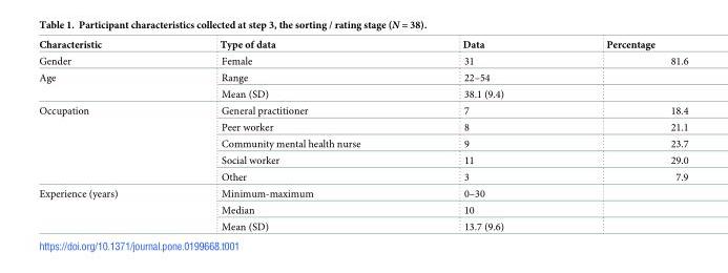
<table><thead><tr><td>Characteristic</td><td>Type of data</td><td>Data</td><td>Percentage</td></tr></thead><tbody><tr><td>Gender</td><td>Female</td><td>31</td><td>81.6</td></tr><tr><td rowspan="2">Age</td><td>Range</td><td>22–54</td><td></td></tr><tr><td>Mean (SD)</td><td>38.1 (9.4)</td><td></td></tr><tr><td rowspan="5">Occupation</td><td>General practitioner</td><td>7</td><td>18.4</td></tr><tr><td>Peer worker</td><td>8</td><td>21.1</td></tr><tr><td>Community mental health nurse</td><td>9</td><td>23.7</td></tr><tr><td>Social worker</td><td>11</td><td>29.0</td></tr><tr><td>Other</td><td>3</td><td>7.9</td></tr><tr><td rowspan="3">Experience (years)</td><td>Minimum-maximum</td><td>0–30</td><td></td></tr><tr><td>Median</td><td>10</td><td></td></tr><tr><td>Mean (SD)</td><td>13.7 (9.6)</td><td></td></tr></tbody></table>